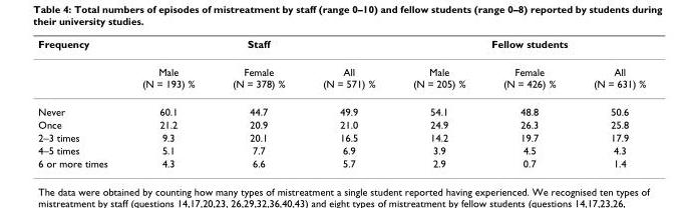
<table><thead><tr><td rowspan="2">Frequency</td><td colspan="3">Staff</td><td colspan="3">Fellow students</td></tr><tr><td>Male (N = 193) %</td><td>Female (N = 378) %</td><td>All (N = 571) %</td><td>Male (N = 205) %</td><td>Female (N = 426) %</td><td>All (N = 631) %</td></tr></thead><tbody><tr><td>Never</td><td>60.1</td><td>44.7</td><td>49.9</td><td>54.1</td><td>48.8</td><td>50.6</td></tr><tr><td>Once</td><td>21.2</td><td>20.9</td><td>21.0</td><td>24.9</td><td>26.3</td><td>25.8</td></tr><tr><td>2–3 times</td><td>9.3</td><td>20.1</td><td>16.5</td><td>14.2</td><td>19.7</td><td>17.9</td></tr><tr><td>4–5 times</td><td>5.1</td><td>7.7</td><td>6.9</td><td>3.9</td><td>4.5</td><td>4.3</td></tr><tr><td>6 or more times</td><td>4.3</td><td>6.6</td><td>5.7</td><td>2.9</td><td>0.7</td><td>1.4</td></tr></tbody></table>